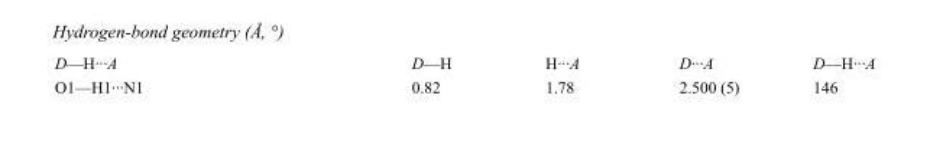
<table><tbody><tr><td>D—H···A</td><td>D—H</td><td>H···A</td><td>D···A</td><td>D—H···A</td></tr><tr><td>O1—H1···N1</td><td>0.82</td><td>1.78</td><td>2.500 (5)</td><td>146</td></tr></tbody></table>